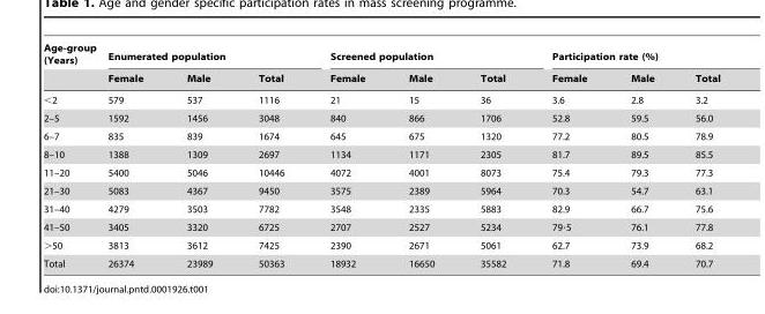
<table><thead><tr><td rowspan="2">Age-group (Years)</td><td colspan="3">Enumerated population</td><td colspan="3">Screened population</td><td colspan="3">Participation rate (%)</td></tr><tr><td>Female</td><td>Male</td><td>Total</td><td>Female</td><td>Male</td><td>Total</td><td>Female</td><td>Male</td><td>Total</td></tr></thead><tbody><tr><td>&lt;2</td><td>579</td><td>537</td><td>1116</td><td>21</td><td>15</td><td>36</td><td>3.6</td><td>2.8</td><td>3.2</td></tr><tr><td>2–5</td><td>1592</td><td>1456</td><td>3048</td><td>840</td><td>866</td><td>1706</td><td>52.8</td><td>59.5</td><td>56.0</td></tr><tr><td>6–7</td><td>835</td><td>839</td><td>1674</td><td>645</td><td>675</td><td>1320</td><td>77.2</td><td>80.5</td><td>78.9</td></tr><tr><td>8–10</td><td>1388</td><td>1309</td><td>2697</td><td>1134</td><td>1171</td><td>2305</td><td>81.7</td><td>89.5</td><td>85.5</td></tr><tr><td>11–20</td><td>5400</td><td>5046</td><td>10446</td><td>4072</td><td>4001</td><td>8073</td><td>75.4</td><td>79.3</td><td>77.3</td></tr><tr><td>21–30</td><td>5083</td><td>4367</td><td>9450</td><td>3575</td><td>2389</td><td>5964</td><td>70.3</td><td>54.7</td><td>63.1</td></tr><tr><td>31–40</td><td>4279</td><td>3503</td><td>7782</td><td>3548</td><td>2335</td><td>5883</td><td>82.9</td><td>66.7</td><td>75.6</td></tr><tr><td>41–50</td><td>3405</td><td>3320</td><td>6725</td><td>2707</td><td>2527</td><td>5234</td><td>79·5</td><td>76.1</td><td>77.8</td></tr><tr><td>&gt;50</td><td>3813</td><td>3612</td><td>7425</td><td>2390</td><td>2671</td><td>5061</td><td>62.7</td><td>73.9</td><td>68.2</td></tr><tr><td>Total</td><td>26374</td><td>23989</td><td>50363</td><td>18932</td><td>16650</td><td>35582</td><td>71.8</td><td>69.4</td><td>70.7</td></tr></tbody></table>